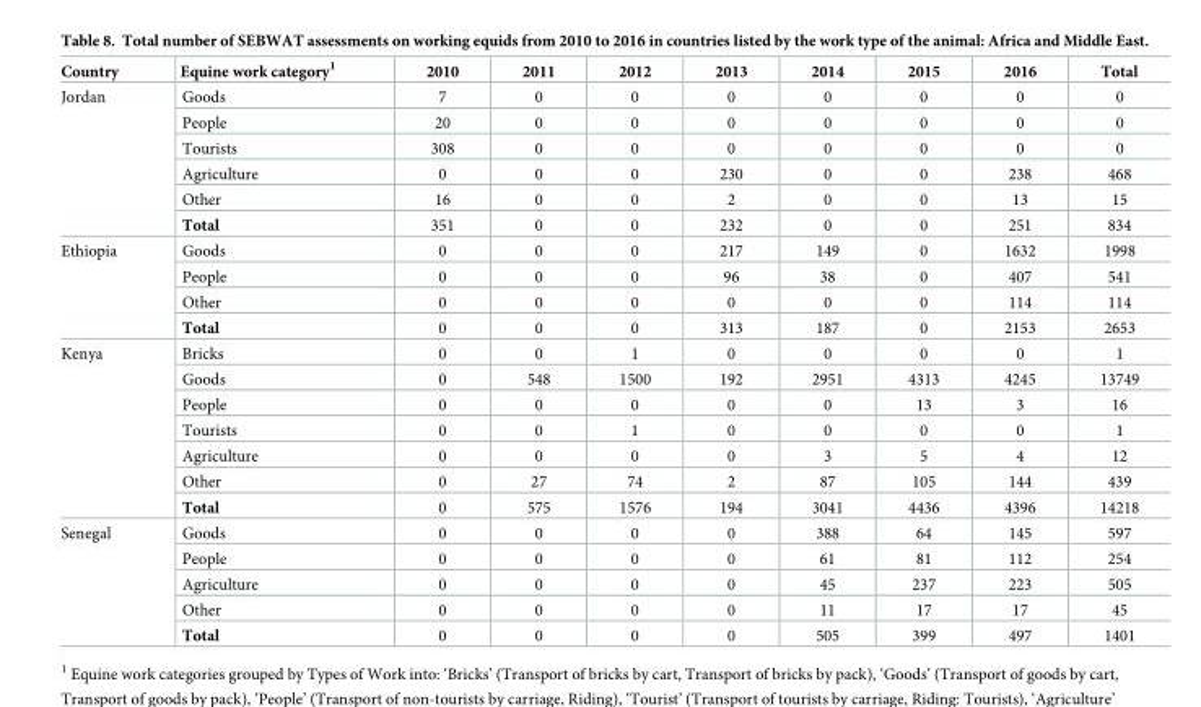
<table><thead><tr><td>Country</td><td>Equine work category<sup>1</sup></td><td>2010</td><td>2011</td><td>2012</td><td>2013</td><td>2014</td><td>2015</td><td>2016</td><td>Total</td></tr></thead><tbody><tr><td rowspan="6">Jordan</td><td>Goods</td><td>7</td><td>0</td><td>0</td><td>0</td><td>0</td><td>0</td><td>0</td><td>0</td></tr><tr><td>People</td><td>20</td><td>0</td><td>0</td><td>0</td><td>0</td><td>0</td><td>0</td><td>0</td></tr><tr><td>Tourists</td><td>308</td><td>0</td><td>0</td><td>0</td><td>0</td><td>0</td><td>0</td><td>0</td></tr><tr><td>Agriculture</td><td>0</td><td>0</td><td>0</td><td>230</td><td>0</td><td>0</td><td>238</td><td>468</td></tr><tr><td>Other</td><td>16</td><td>0</td><td>0</td><td>2</td><td>0</td><td>0</td><td>13</td><td>15</td></tr><tr><td>Total</td><td>351</td><td>0</td><td>0</td><td>232</td><td>0</td><td>0</td><td>251</td><td>834</td></tr><tr><td rowspan="4">Ethiopia</td><td>Goods</td><td>0</td><td>0</td><td>0</td><td>217</td><td>149</td><td>0</td><td>1632</td><td>1998</td></tr><tr><td>People</td><td>0</td><td>0</td><td>0</td><td>96</td><td>38</td><td>0</td><td>407</td><td>541</td></tr><tr><td>Other</td><td>0</td><td>0</td><td>0</td><td>0</td><td>0</td><td>0</td><td>114</td><td>114</td></tr><tr><td>Total</td><td>0</td><td>0</td><td>0</td><td>313</td><td>187</td><td>0</td><td>2153</td><td>2653</td></tr><tr><td rowspan="7">Kenya</td><td>Bricks</td><td>0</td><td>0</td><td>1</td><td>0</td><td>0</td><td>0</td><td>0</td><td>1</td></tr><tr><td>Goods</td><td>0</td><td>548</td><td>1500</td><td>192</td><td>2951</td><td>4313</td><td>4245</td><td>13749</td></tr><tr><td>People</td><td>0</td><td>0</td><td>0</td><td>0</td><td>0</td><td>13</td><td>3</td><td>16</td></tr><tr><td>Tourists</td><td>0</td><td>0</td><td>1</td><td>0</td><td>0</td><td>0</td><td>0</td><td>1</td></tr><tr><td>Agriculture</td><td>0</td><td>0</td><td>0</td><td>0</td><td>3</td><td>5</td><td>4</td><td>12</td></tr><tr><td>Other</td><td>0</td><td>27</td><td>74</td><td>2</td><td>87</td><td>105</td><td>144</td><td>439</td></tr><tr><td>Total</td><td>0</td><td>575</td><td>1576</td><td>194</td><td>3041</td><td>4436</td><td>4396</td><td>14218</td></tr><tr><td rowspan="5">Senegal</td><td>Goods</td><td>0</td><td>0</td><td>0</td><td>0</td><td>388</td><td>64</td><td>145</td><td>597</td></tr><tr><td>People</td><td>0</td><td>0</td><td>0</td><td>0</td><td>61</td><td>81</td><td>112</td><td>254</td></tr><tr><td>Agriculture</td><td>0</td><td>0</td><td>0</td><td>0</td><td>45</td><td>237</td><td>223</td><td>505</td></tr><tr><td>Other</td><td>0</td><td>0</td><td>0</td><td>0</td><td>11</td><td>17</td><td>17</td><td>45</td></tr><tr><td>Total</td><td>0</td><td>0</td><td>0</td><td>0</td><td>505</td><td>399</td><td>497</td><td>1401</td></tr></tbody></table>